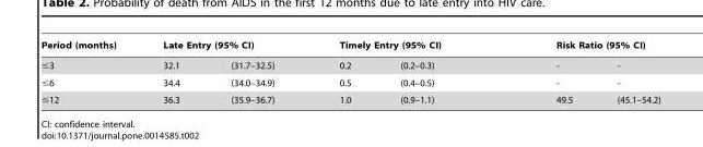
<table><thead><tr><td rowspan="2">Period (months) ≤3</td><td colspan="2">Late Entry (95% CI)</td><td colspan="2">Timely Entry (95% CI)</td><td colspan="2">Risk Ratio (95% CI)</td></tr><tr><td>32.1</td><td>(31.7–32.5)</td><td>0.2</td><td>(0.2–0.3)</td><td>-</td><td>-</td></tr></thead><tbody><tr><td>≤6</td><td>34.4</td><td>(34.0–34.9)</td><td>0.5</td><td>(0.4–0.5)</td><td>-</td><td>-</td></tr><tr><td>≤12</td><td>36.3</td><td>(35.9–36.7)</td><td>1.0</td><td>(0.9–1.1)</td><td>49.5</td><td>(45.1–54.2)</td></tr></tbody></table>